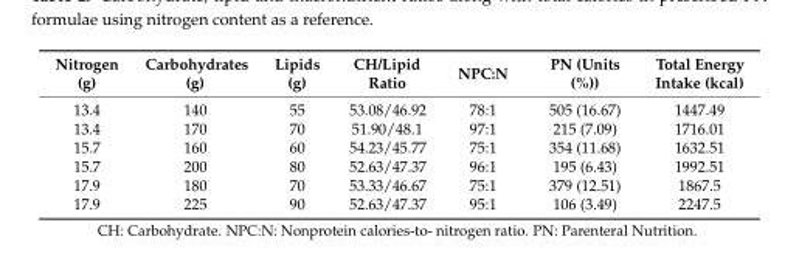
<table><thead><tr><td>Nitrogen (g)</td><td>Carbohydrates (g)</td><td>Lipids (g)</td><td>CH/Lipid Ratio</td><td>NPC:N</td><td>PN (Units (%))</td><td>Total Energy Intake (kcal)</td></tr></thead><tbody><tr><td>13.4</td><td>140</td><td>55</td><td>53.08/46.92</td><td>78:1</td><td>505 (16.67)</td><td>1447.49</td></tr><tr><td>13.4</td><td>170</td><td>70</td><td>51.90/48.1</td><td>97:1</td><td>215 (7.09)</td><td>1716.01</td></tr><tr><td>15.7</td><td>160</td><td>60</td><td>54.23/45.77</td><td>75:1</td><td>354 (11.68)</td><td>1632.51</td></tr><tr><td>15.7</td><td>200</td><td>80</td><td>52.63/47.37</td><td>96:1</td><td>195 (6.43)</td><td>1992.51</td></tr><tr><td>17.9</td><td>180</td><td>70</td><td>53.33/46.67</td><td>75:1</td><td>379 (12.51)</td><td>1867.5</td></tr><tr><td>17.9</td><td>225</td><td>90</td><td>52.63/47.37</td><td>95:1</td><td>106 (3.49)</td><td>2247.5</td></tr></tbody></table>